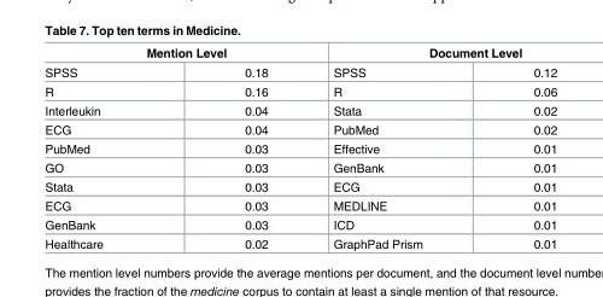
<table><thead><tr><td colspan="2">Mention Level</td><td colspan="2">Document Level</td></tr><tr><td>SPSS</td><td>0.18</td><td>SPSS</td><td>0.12</td></tr></thead><tbody><tr><td>R</td><td>0.16</td><td>R</td><td>0.06</td></tr><tr><td>Interleukin</td><td>0.04</td><td>Stata</td><td>0.02</td></tr><tr><td>ECG</td><td>0.04</td><td>PubMed</td><td>0.02</td></tr><tr><td>PubMed</td><td>0.03</td><td>Effective</td><td>0.01</td></tr><tr><td>GO</td><td>0.03</td><td>GenBank</td><td>0.01</td></tr><tr><td>Stata</td><td>0.03</td><td>ECG</td><td>0.01</td></tr><tr><td>ECG</td><td>0.03</td><td>MEDLINE</td><td>0.01</td></tr><tr><td>GenBank</td><td>0.03</td><td>ICD</td><td>0.01</td></tr><tr><td>Healthcare</td><td>0.02</td><td>GraphPad Prism</td><td>0.01</td></tr></tbody></table>